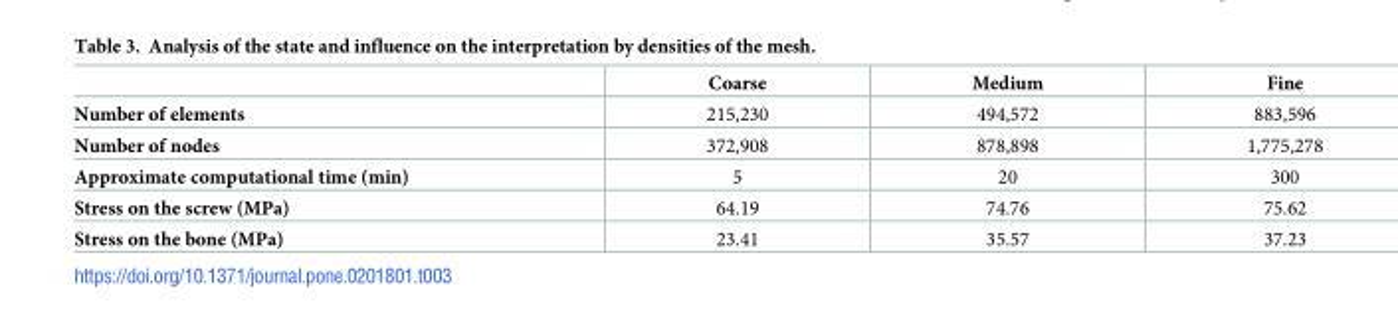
<table><thead><tr><td></td><td>Coarse</td><td>Medium</td><td>Fine</td></tr></thead><tbody><tr><td>Number of elements</td><td>215,230</td><td>494,572</td><td>883,596</td></tr><tr><td>Number of nodes</td><td>372,908</td><td>878,898</td><td>1,775,278</td></tr><tr><td>Approximate computational time (min)</td><td>5</td><td>20</td><td>300</td></tr><tr><td>Stress on the screw (MPa)</td><td>64.19</td><td>74.76</td><td>75.62</td></tr><tr><td>Stress on the bone (MPa)</td><td>23.41</td><td>35.57</td><td>37.23</td></tr></tbody></table>